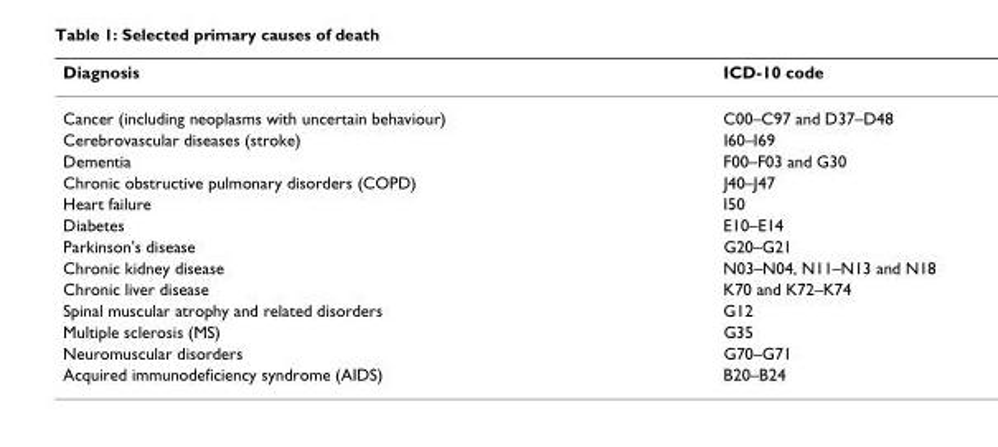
<table><thead><tr><td>Diagnosis</td><td>ICD-10 code</td></tr></thead><tbody><tr><td>Cancer (including neoplasms with uncertain behaviour)</td><td>C00–C97 and D37–D48</td></tr><tr><td>Cerebrovascular diseases (stroke)</td><td>I60–I69</td></tr><tr><td>Dementia</td><td>F00–F03 and G30</td></tr><tr><td>Chronic obstructive pulmonary disorders (COPD)</td><td>J40–J47</td></tr><tr><td>Heart failure</td><td>I50</td></tr><tr><td>Diabetes</td><td>E10–E14</td></tr><tr><td>Parkinson&#x27;s disease</td><td>G20–G21</td></tr><tr><td>Chronic kidney disease</td><td>N03–N04, N11–N13 and N18</td></tr><tr><td>Chronic liver disease</td><td>K70 and K72–K74</td></tr><tr><td>Spinal muscular atrophy and related disorders</td><td>G12</td></tr><tr><td>Multiple sclerosis (MS)</td><td>G35</td></tr><tr><td>Neuromuscular disorders</td><td>G70–G71</td></tr><tr><td>Acquired immunodeficiency syndrome (AIDS)</td><td>B20–B24</td></tr></tbody></table>